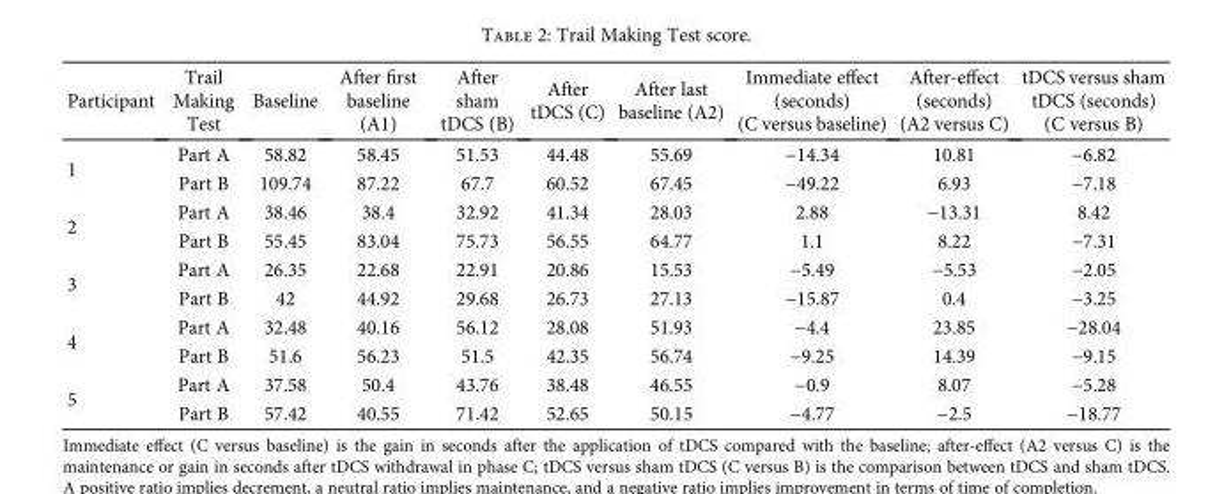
<table><thead><tr><td>Participant</td><td>Trail Making Test</td><td>Baseline</td><td>After first baseline (A1)</td><td>After sham tDCS (B)</td><td>After tDCS (C)</td><td>After last baseline (A2)</td><td>Immediate effect (seconds) (C versus baseline)</td><td>After-effect (seconds) (A2 versus C)</td><td>tDCS versus sham tDCS (seconds) (C versus B)</td></tr></thead><tbody><tr><td rowspan="2">1</td><td>Part A</td><td>58.82</td><td>58.45</td><td>51.53</td><td>44.48</td><td>55.69</td><td>−14.34</td><td>10.81</td><td>−6.82</td></tr><tr><td>Part B</td><td>109.74</td><td>87.22</td><td>67.7</td><td>60.52</td><td>67.45</td><td>−49.22</td><td>6.93</td><td>−7.18</td></tr><tr><td rowspan="2">2</td><td>Part A</td><td>38.46</td><td>38.4</td><td>32.92</td><td>41.34</td><td>28.03</td><td>2.88</td><td>−13.31</td><td>8.42</td></tr><tr><td>Part B</td><td>55.45</td><td>83.04</td><td>75.73</td><td>56.55</td><td>64.77</td><td>1.1</td><td>8.22</td><td>−7.31</td></tr><tr><td rowspan="2">3</td><td>Part A</td><td>26.35</td><td>22.68</td><td>22.91</td><td>20.86</td><td>15.53</td><td>−5.49</td><td>−5.53</td><td>−2.05</td></tr><tr><td>Part B</td><td>42</td><td>44.92</td><td>29.68</td><td>26.73</td><td>27.13</td><td>−15.87</td><td>0.4</td><td>−3.25</td></tr><tr><td rowspan="2">4</td><td>Part A</td><td>32.48</td><td>40.16</td><td>56.12</td><td>28.08</td><td>51.93</td><td>−4.4</td><td>23.85</td><td>−28.04</td></tr><tr><td>Part B</td><td>51.6</td><td>56.23</td><td>51.5</td><td>42.35</td><td>56.74</td><td>−9.25</td><td>14.39</td><td>−9.15</td></tr><tr><td rowspan="2">5</td><td>Part A</td><td>37.58</td><td>50.4</td><td>43.76</td><td>38.48</td><td>46.55</td><td>−0.9</td><td>8.07</td><td>−5.28</td></tr><tr><td>Part B</td><td>57.42</td><td>40.55</td><td>71.42</td><td>52.65</td><td>50.15</td><td>−4.77</td><td>−2.5</td><td>−18.77</td></tr></tbody></table>